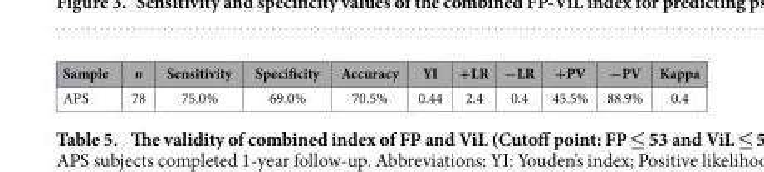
<table><thead><tr><td>Sample</td><td>n</td><td>Sensitivity</td><td>Specificity</td><td>Accuracy</td><td>YI</td><td>+LR</td><td>−LR</td><td>+PV</td><td>−PV</td><td>Kappa</td></tr></thead><tbody><tr><td>APS</td><td>78</td><td>75.0%</td><td>69.0%</td><td>70.5%</td><td>0.44</td><td>2.4</td><td>0.4</td><td>45.5%</td><td>88.9%</td><td>0.4</td></tr></tbody></table>